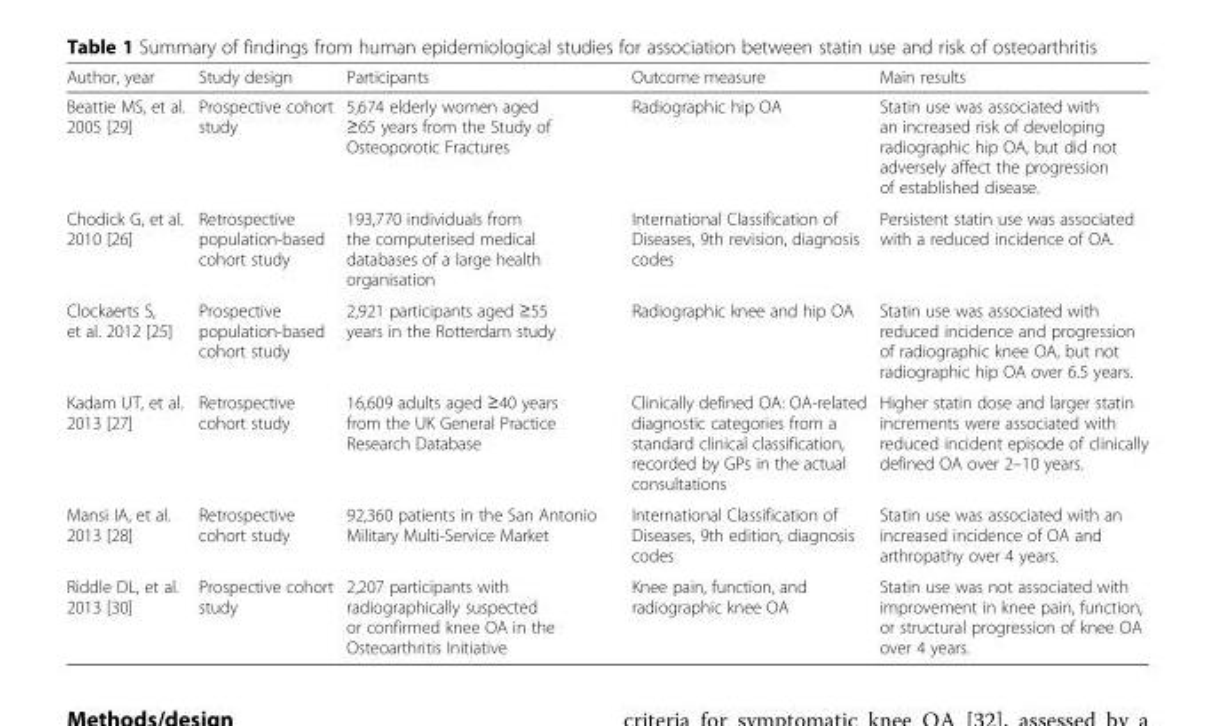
<table><thead><tr><td>Author, year</td><td>Study design</td><td>Participants</td><td>Outcome measure</td><td>Main results</td></tr></thead><tbody><tr><td>Beattie MS, et al. 2005 [29]</td><td>Prospective cohort study</td><td>5,674 elderly women aged ≥65 years from the Study of Osteoporotic Fractures</td><td>Radiographic hip OA</td><td>Statin use was associated with an increased risk of developing radiographic hip OA, but did not adversely affect the progression of established disease.</td></tr><tr><td>Chodick G, et al. 2010 [26]</td><td>Retrospective population-based cohort study</td><td>193,770 individuals from the computerised medical databases of a large health organisation</td><td>International Classification of Diseases, 9th revision, diagnosis codes</td><td>Persistent statin use was associated with a reduced incidence of OA.</td></tr><tr><td>Clockaerts S, et al. 2012 [25]</td><td>Prospective population-based cohort study</td><td>2,921 participants aged ≥55 years in the Rotterdam study</td><td>Radiographic knee and hip OA</td><td>Statin use was associated with reduced incidence and progression of radiographic knee OA, but not radiographic hip OA over 6.5 years.</td></tr><tr><td>Kadam UT, et al. 2013 [27]</td><td>Retrospective cohort study</td><td>16,609 adults aged ≥40 years from the UK General Practice Research Database</td><td>Clinically defined OA: OA-related diagnostic categories from a standard clinical classification, recorded by GPs in the actual consultations</td><td>Higher statin dose and larger statin increments were associated with reduced incident episode of clinically defined OA over 2–10 years.</td></tr><tr><td>Mansi IA, et al. 2013 [28]</td><td>Retrospective cohort study</td><td>92,360 patients in the San Antonio Military Multi-Service Market</td><td>International Classification of Diseases, 9th edition, diagnosis codes</td><td>Statin use was associated with an increased incidence of OA and arthropathy over 4 years.</td></tr><tr><td>Riddle DL, et al. 2013 [30]</td><td>Prospective cohort study</td><td>2,207 participants with radiographically suspected or confirmed knee OA in the Osteoarthritis Initiative</td><td>Knee pain, function, and radiographic knee OA</td><td>Statin use was not associated with improvement in knee pain, function, or structural progression of knee OA over 4 years.</td></tr></tbody></table>